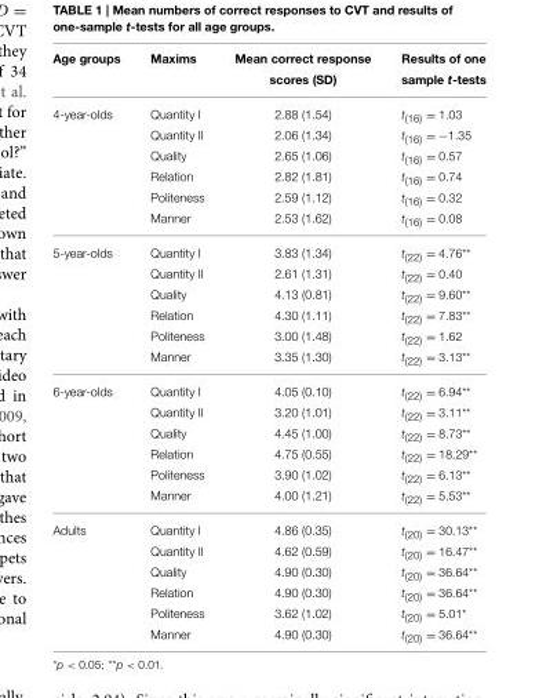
<table><thead><tr><td>Age groups</td><td>Maxims</td><td>Mean correct response scores (SD)</td><td>Results of one sample t-tests</td></tr></thead><tbody><tr><td rowspan="6">4-year-olds</td><td>Quantity I</td><td>2.88 (1.54)</td><td>t<sub>(16)</sub> = 1.03</td></tr><tr><td>Quantity II</td><td>2.06 (1.34)</td><td>t<sub>(16)</sub> = −1.35</td></tr><tr><td>Quality</td><td>2.65 (1.06)</td><td>t<sub>(16)</sub> = 0.57</td></tr><tr><td>Relation</td><td>2.82 (1.81)</td><td>t<sub>(16)</sub> = 0.74</td></tr><tr><td>Politeness</td><td>2.59 (1.12)</td><td>t<sub>(16)</sub> = 0.32</td></tr><tr><td>Manner</td><td>2.53 (1.62)</td><td>t<sub>(16)</sub> = 0.08</td></tr><tr><td rowspan="6">5-year-olds</td><td>Quantity I</td><td>3.83 (1.34)</td><td>t<sub>(22)</sub> = 4.76**</td></tr><tr><td>Quantity II</td><td>2.61 (1.31)</td><td>t<sub>(22)</sub> = 0.40</td></tr><tr><td>Quality</td><td>4.13 (0.81)</td><td>t<sub>(22)</sub> = 9.60**</td></tr><tr><td>Relation</td><td>4.30 (1.11)</td><td>t<sub>(22)</sub> = 7.83**</td></tr><tr><td>Politeness</td><td>3.00 (1.48)</td><td>t<sub>(22)</sub> = 1.62</td></tr><tr><td>Manner</td><td>3.35 (1.30)</td><td>t<sub>(22)</sub> = 3.13**</td></tr><tr><td rowspan="6">6-year-olds</td><td>Quantity I</td><td>4.05 (0.10)</td><td>t<sub>(22)</sub> = 6.94**</td></tr><tr><td>Quantity II</td><td>3.20 (1.01)</td><td>t<sub>(22)</sub> = 3.11**</td></tr><tr><td>Quality</td><td>4.45 (1.00)</td><td>t<sub>(22)</sub> = 8.73**</td></tr><tr><td>Relation</td><td>4.75 (0.55)</td><td>t<sub>(22)</sub> = 18.29**</td></tr><tr><td>Politeness</td><td>3.90 (1.02)</td><td>t<sub>(22)</sub> = 6.13**</td></tr><tr><td>Manner</td><td>4.00 (1.21)</td><td>t<sub>(22)</sub> = 5.53**</td></tr><tr><td rowspan="6">Adults</td><td>Quantity I</td><td>4.86 (0.35)</td><td>t<sub>(20)</sub> = 30.13**</td></tr><tr><td>Quantity II</td><td>4.62 (0.59)</td><td>t<sub>(20)</sub> = 16.47**</td></tr><tr><td>Quality</td><td>4.90 (0.30)</td><td>t<sub>(20)</sub> = 36.64**</td></tr><tr><td>Relation</td><td>4.90 (0.30)</td><td>t<sub>(20)</sub> = 36.64**</td></tr><tr><td>Politeness</td><td>3.62 (1.02)</td><td>t<sub>(20)</sub> = 5.01*</td></tr><tr><td>Manner</td><td>4.90 (0.30)</td><td>t<sub>(20)</sub> = 36.64**</td></tr></tbody></table>